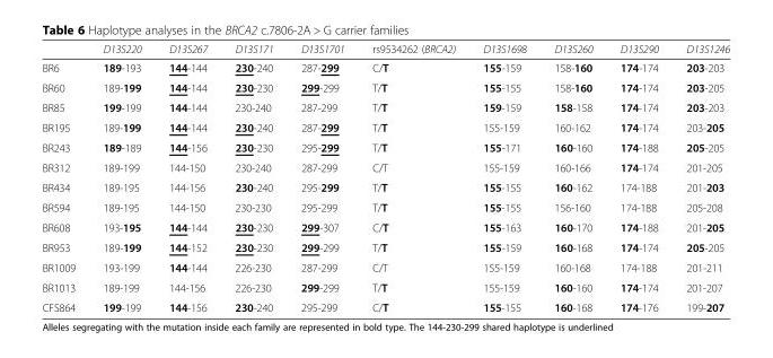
<table><thead><tr><td></td><td>D13S220</td><td>D13S267</td><td>D13S171</td><td>D13S1701</td><td>rs9534262 (BRCA2)</td><td>D13S1698</td><td>D13S260</td><td>D13S290</td><td>D13S1246</td></tr></thead><tbody><tr><td>BR6</td><td>189-193</td><td>144-144</td><td>230-240</td><td>287-299</td><td>C/T</td><td>155-159</td><td>158-160</td><td>174-174</td><td>203-203</td></tr><tr><td>BR60</td><td>189-199</td><td>144-144</td><td>230-230</td><td>299-299</td><td>T/T</td><td>155-155</td><td>158-160</td><td>174-174</td><td>203-205</td></tr><tr><td>BR85</td><td>199-199</td><td>144-144</td><td>230-240</td><td>287-299</td><td>T/T</td><td>159-159</td><td>158-158</td><td>174-174</td><td>203-203</td></tr><tr><td>BR195</td><td>189-199</td><td>144-144</td><td>230-240</td><td>287-299</td><td>T/T</td><td>155-159</td><td>160-162</td><td>174-174</td><td>203-205</td></tr><tr><td>BR243</td><td>189-189</td><td>144-156</td><td>230-230</td><td>295-299</td><td>T/T</td><td>155-171</td><td>160-160</td><td>174-188</td><td>205-205</td></tr><tr><td>BR312</td><td>189-199</td><td>144-150</td><td>230-240</td><td>287-299</td><td>C/T</td><td>155-159</td><td>160-166</td><td>174-174</td><td>201-205</td></tr><tr><td>BR434</td><td>189-195</td><td>144-156</td><td>230-240</td><td>295-299</td><td>T/T</td><td>155-155</td><td>160-162</td><td>174-188</td><td>201-203</td></tr><tr><td>BR594</td><td>189-195</td><td>144-150</td><td>230-230</td><td>295-299</td><td>T/T</td><td>155-155</td><td>156-160</td><td>174-188</td><td>205-208</td></tr><tr><td>BR608</td><td>193-195</td><td>144-144</td><td>230-230</td><td>299-307</td><td>C/T</td><td>155-163</td><td>160-170</td><td>174-188</td><td>201-205</td></tr><tr><td>BR953</td><td>189-199</td><td>144-152</td><td>230-230</td><td>299-299</td><td>T/T</td><td>155-159</td><td>160-168</td><td>174-174</td><td>205-205</td></tr><tr><td>BR1009</td><td>193-199</td><td>144-144</td><td>226-230</td><td>287-299</td><td>C/T</td><td>155-159</td><td>160-168</td><td>174-188</td><td>201-211</td></tr><tr><td>BR1013</td><td>189-199</td><td>144-156</td><td>226-230</td><td>299-299</td><td>T/T</td><td>155-159</td><td>160-160</td><td>174-174</td><td>201-207</td></tr><tr><td>CFS864</td><td>199-199</td><td>144-156</td><td>230-240</td><td>295-299</td><td>C/T</td><td>155-155</td><td>160-168</td><td>174-176</td><td>199-207</td></tr></tbody></table>